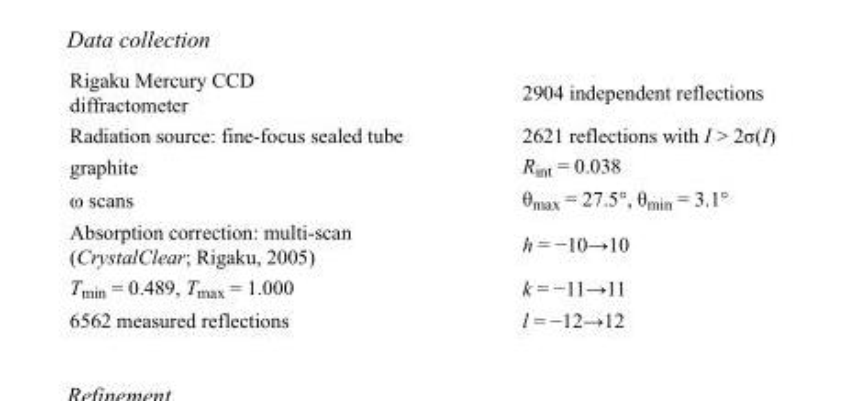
<table><tbody><tr><td>Rigaku Mercury CCD diffractometer</td><td>2904 independent reflections</td></tr><tr><td>Radiation source: fine-focus sealed tube</td><td>2621 reflections with I &gt; 2σ(I)</td></tr><tr><td>graphite</td><td>R<sub>int</sub> = 0.038</td></tr><tr><td>ω scans</td><td>θ<sub>max</sub> = 27.5°, θ<sub>min</sub> = 3.1°</td></tr><tr><td>Absorption correction: multi-scan (CrystalClear; Rigaku, 2005)</td><td>h = −10→10</td></tr><tr><td>T<sub>min</sub> = 0.489, T<sub>max</sub> = 1.000</td><td>k = −11→11</td></tr><tr><td>6562 measured reflections</td><td>l = −12→12</td></tr></tbody></table>